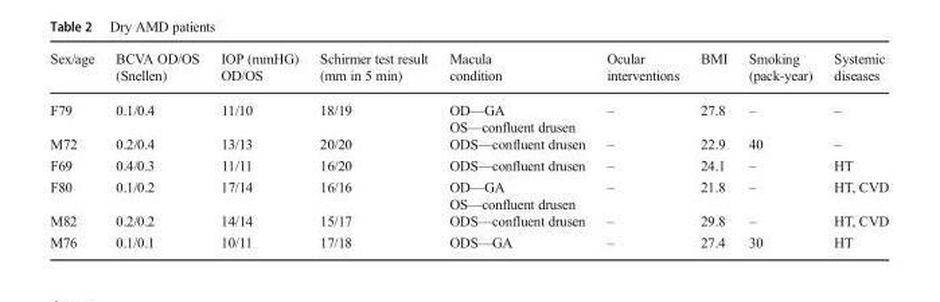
<table><thead><tr><td>Sex/age</td><td>BCVA OD/OS (Snellen)</td><td>IOP (mmHG) OD/OS</td><td>Schirmer test result (mm in 5 min)</td><td>Macula condition</td><td>Ocular interventions</td><td>BMI</td><td>Smoking (pack-year)</td><td>Systemic diseases</td></tr></thead><tbody><tr><td>F79</td><td>0.1/0.4</td><td>11/10</td><td>18/19</td><td>OD—GA OS—confluent drusen</td><td>–</td><td>27.8</td><td>–</td><td>–</td></tr><tr><td>M72</td><td>0.2/0.4</td><td>13/13</td><td>20/20</td><td>ODS—confluent drusen</td><td>–</td><td>22.9</td><td>40</td><td>–</td></tr><tr><td>F69</td><td>0.4/0.3</td><td>11/11</td><td>16/20</td><td>ODS—confluent drusen</td><td>–</td><td>24.1</td><td>–</td><td>HT</td></tr><tr><td>F80</td><td>0.1/0.2</td><td>17/14</td><td>16/16</td><td>OD—GA OS—confluent drusen</td><td>–</td><td>21.8</td><td>–</td><td>HT, CVD</td></tr><tr><td>M82</td><td>0.2/0.2</td><td>14/14</td><td>15/17</td><td>ODS—confluent drusen</td><td>–</td><td>29.8</td><td>–</td><td>HT, CVD</td></tr><tr><td>M76</td><td>0.1/0.1</td><td>10/11</td><td>17/18</td><td>ODS—GA</td><td>–</td><td>27.4</td><td>30</td><td>HT</td></tr></tbody></table>